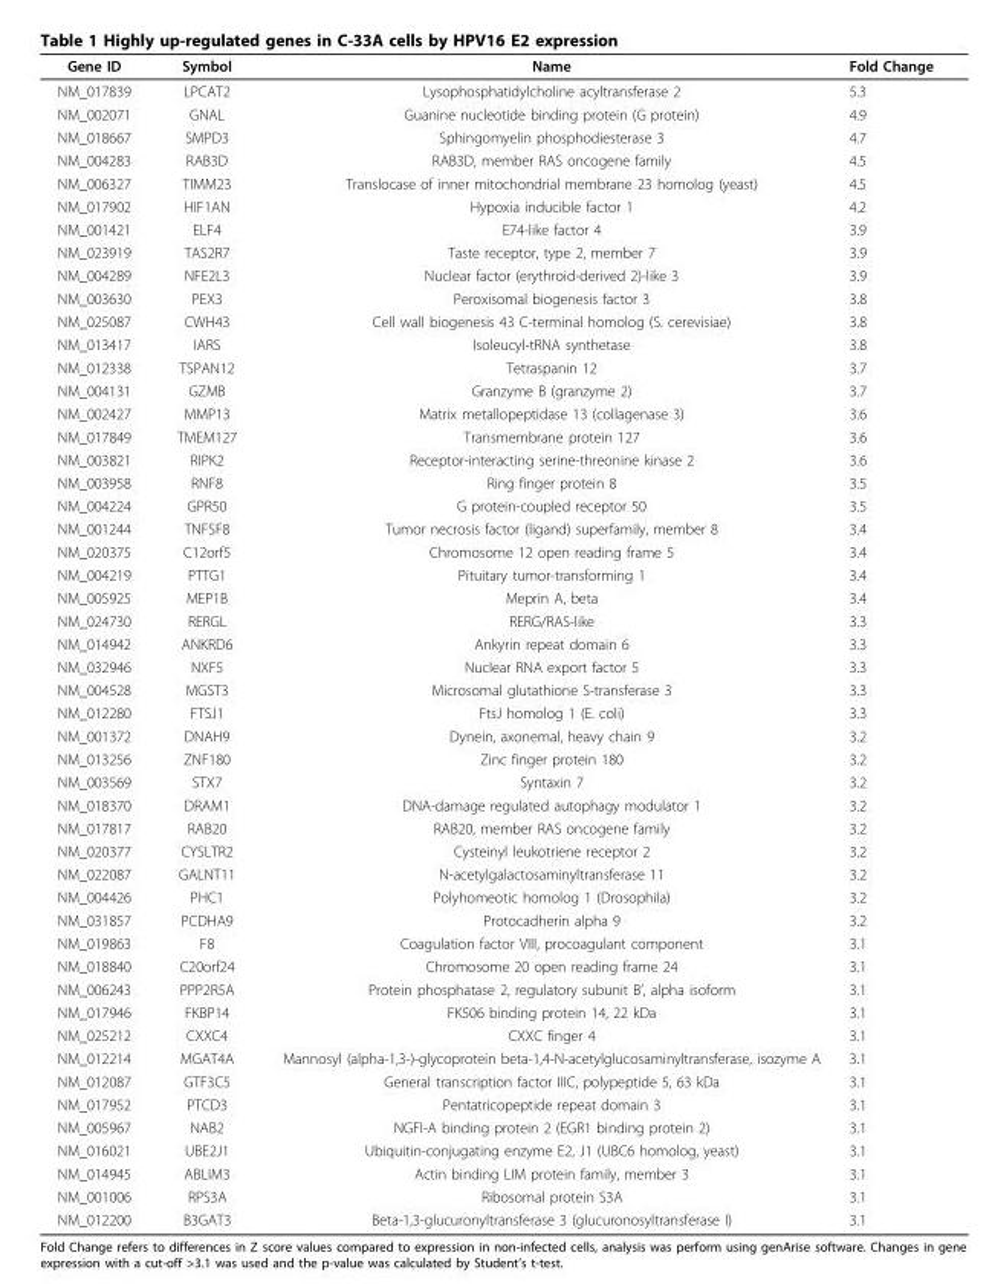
<table><thead><tr><td>Gene ID</td><td>Symbol</td><td>Name</td><td>Fold Change</td></tr></thead><tbody><tr><td>NM_017839</td><td>LPCAT2</td><td>Lysophosphatidylcholine acyltransferase 2</td><td>5.3</td></tr><tr><td>NM_002071</td><td>GNAL</td><td>Guanine nucleotide binding protein (G protein)</td><td>4.9</td></tr><tr><td>NM_018667</td><td>SMPD3</td><td>Sphingomyelin phosphodiesterase 3</td><td>4.7</td></tr><tr><td>NM_004283</td><td>RAB3D</td><td>RAB3D, member RAS oncogene family</td><td>4.5</td></tr><tr><td>NM_006327</td><td>TIMM23</td><td>Translocase of inner mitochondrial membrane 23 homolog (yeast)</td><td>4.5</td></tr><tr><td>NM_017902</td><td>HIF1AN</td><td>Hypoxia inducible factor 1</td><td>4.2</td></tr><tr><td>NM_001421</td><td>ELF4</td><td>E74-like factor 4</td><td>3.9</td></tr><tr><td>NM_023919</td><td>TAS2R7</td><td>Taste receptor, type 2, member 7</td><td>3.9</td></tr><tr><td>NM_004289</td><td>NFE2L3</td><td>Nuclear factor (erythroid-derived 2)-like 3</td><td>3.9</td></tr><tr><td>NM_003630</td><td>PEX3</td><td>Peroxisomal biogenesis factor 3</td><td>3.8</td></tr><tr><td>NM_025087</td><td>CWH43</td><td>Cell wall biogenesis 43 C-terminal homolog (S. cerevisiae)</td><td>3.8</td></tr><tr><td>NM_013417</td><td>IARS</td><td>Isoleucyl-tRNA synthetase</td><td>3.8</td></tr><tr><td>NM_012338</td><td>TSPAN12</td><td>Tetraspanin 12</td><td>3.7</td></tr><tr><td>NM_004131</td><td>GZMB</td><td>Granzyme B (granzyme 2)</td><td>3.7</td></tr><tr><td>NM_002427</td><td>MMP13</td><td>Matrix metallopeptidase 13 (collagenase 3)</td><td>3.6</td></tr><tr><td>NM_017849</td><td>TMEM127</td><td>Transmembrane protein 127</td><td>3.6</td></tr><tr><td>NM_003821</td><td>RIPK2</td><td>Receptor-interacting serine-threonine kinase 2</td><td>3.6</td></tr><tr><td>NM_003958</td><td>RNF8</td><td>Ring finger protein 8</td><td>3.5</td></tr><tr><td>NM_004224</td><td>GPR50</td><td>G protein-coupled receptor 50</td><td>3.5</td></tr><tr><td>NM_001244</td><td>TNFSF8</td><td>Tumor necrosis factor (ligand) superfamily, member 8</td><td>3.4</td></tr><tr><td>NM_020375</td><td>C12orf5</td><td>Chromosome 12 open reading frame 5</td><td>3.4</td></tr><tr><td>NM_004219</td><td>PTTG1</td><td>Pituitary tumor-transforming 1</td><td>3.4</td></tr><tr><td>NM_005925</td><td>MEP1B</td><td>Meprin A, beta</td><td>3.4</td></tr><tr><td>NM_024730</td><td>RERGL</td><td>RERG/RAS-like</td><td>3.3</td></tr><tr><td>NM_014942</td><td>ANKRD6</td><td>Ankyrin repeat domain 6</td><td>3.3</td></tr><tr><td>NM_032946</td><td>NXF5</td><td>Nuclear RNA export factor 5</td><td>3.3</td></tr><tr><td>NM_004528</td><td>MGST3</td><td>Microsomal glutathione S-transferase 3</td><td>3.3</td></tr><tr><td>NM_012280</td><td>FTSJ1</td><td>FtsJ homolog 1 (E. coli)</td><td>3.3</td></tr><tr><td>NM_001372</td><td>DNAH9</td><td>Dynein, axonemal, heavy chain 9</td><td>3.2</td></tr><tr><td>NM_013256</td><td>ZNF180</td><td>Zinc finger protein 180</td><td>3.2</td></tr><tr><td>NM_003569</td><td>STX7</td><td>Syntaxin 7</td><td>3.2</td></tr><tr><td>NM_018370</td><td>DRAM1</td><td>DNA-damage regulated autophagy modulator 1</td><td>3.2</td></tr><tr><td>NM_017817</td><td>RAB20</td><td>RAB20, member RAS oncogene family</td><td>3.2</td></tr><tr><td>NM_020377</td><td>CYSLTR2</td><td>Cysteinyl leukotriene receptor 2</td><td>3.2</td></tr><tr><td>NM_022087</td><td>GALNT11</td><td>N-acetylgalactosaminyltransferase 11</td><td>3.2</td></tr><tr><td>NM_004426</td><td>PHC1</td><td>Polyhomeotic homolog 1 (Drosophila)</td><td>3.2</td></tr><tr><td>NM_031857</td><td>PCDHA9</td><td>Protocadherin alpha 9</td><td>3.2</td></tr><tr><td>NM_019863</td><td>F8</td><td>Coagulation factor VIII, procoagulant component</td><td>3.1</td></tr><tr><td>NM_018840</td><td>C20orf24</td><td>Chromosome 20 open reading frame 24</td><td>3.1</td></tr><tr><td>NM_006243</td><td>PPP2R5A</td><td>Protein phosphatase 2, regulatory subunit B’, alpha isoform</td><td>3.1</td></tr><tr><td>NM_017946</td><td>FKBP14</td><td>FK506 binding protein 14, 22 kDa</td><td>3.1</td></tr><tr><td>NM_025212</td><td>CXXC4</td><td>CXXC finger 4</td><td>3.1</td></tr><tr><td>NM_012214</td><td>MGAT4A</td><td>Mannosyl (alpha-1,3-)-glycoprotein beta-1,4-N-acetylglucosaminyltransferase, isozyme A</td><td>3.1</td></tr><tr><td>NM_012087</td><td>GTF3C5</td><td>General transcription factor IIIC, polypeptide 5, 63 kDa</td><td>3.1</td></tr><tr><td>NM_017952</td><td>PTCD3</td><td>Pentatricopeptide repeat domain 3</td><td>3.1</td></tr><tr><td>NM_005967</td><td>NAB2</td><td>NGFI-A binding protein 2 (EGR1 binding protein 2)</td><td>3.1</td></tr><tr><td>NM_016021</td><td>UBE2J1</td><td>Ubiquitin-conjugating enzyme E2, J1 (UBC6 homolog, yeast)</td><td>3.1</td></tr><tr><td>NM_014945</td><td>ABLIM3</td><td>Actin binding LIM protein family, member 3</td><td>3.1</td></tr><tr><td>NM_001006</td><td>RPS3A</td><td>Ribosomal protein S3A</td><td>3.1</td></tr><tr><td>NM_012200</td><td>B3GAT3</td><td>Beta-1,3-glucuronyltransferase 3 (glucuronosyltransferase I)</td><td>3.1</td></tr></tbody></table>